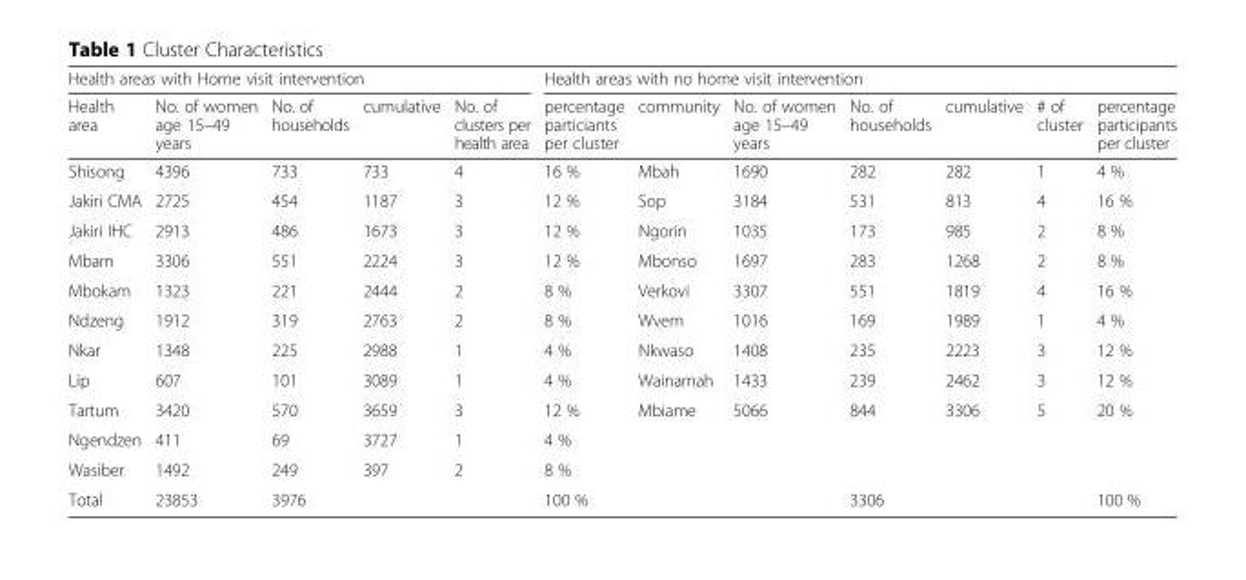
<table><thead><tr><td colspan="5">Health areas with Home visit intervention</td><td colspan="7">Health areas with no home visit intervention</td></tr><tr><td>Health area</td><td>No. of women age 15–49 years</td><td>No. of households</td><td>cumulative</td><td>No. of clusters per health area</td><td>percentage particiants per cluster</td><td>community</td><td>No. of women age 15–49 years</td><td>No. of households</td><td>cumulative</td><td># of cluster</td><td>percentage participants per cluster</td></tr></thead><tbody><tr><td>Shisong</td><td>4396</td><td>733</td><td>733</td><td>4</td><td>16 %</td><td>Mbah</td><td>1690</td><td>282</td><td>282</td><td>1</td><td>4 %</td></tr><tr><td>Jakiri CMA</td><td>2725</td><td>454</td><td>1187</td><td>3</td><td>12 %</td><td>Sop</td><td>3184</td><td>531</td><td>813</td><td>4</td><td>16 %</td></tr><tr><td>Jakiri IHC</td><td>2913</td><td>486</td><td>1673</td><td>3</td><td>12 %</td><td>Ngorin</td><td>1035</td><td>173</td><td>985</td><td>2</td><td>8 %</td></tr><tr><td>Mbam</td><td>3306</td><td>551</td><td>2224</td><td>3</td><td>12 %</td><td>Mbonso</td><td>1697</td><td>283</td><td>1268</td><td>2</td><td>8 %</td></tr><tr><td>Mbokam</td><td>1323</td><td>221</td><td>2444</td><td>2</td><td>8 %</td><td>Verkovi</td><td>3307</td><td>551</td><td>1819</td><td>4</td><td>16 %</td></tr><tr><td>Ndzeng</td><td>1912</td><td>319</td><td>2763</td><td>2</td><td>8 %</td><td>Wvem</td><td>1016</td><td>169</td><td>1989</td><td>1</td><td>4 %</td></tr><tr><td>Nkar</td><td>1348</td><td>225</td><td>2988</td><td>1</td><td>4 %</td><td>Nkwaso</td><td>1408</td><td>235</td><td>2223</td><td>3</td><td>12 %</td></tr><tr><td>Lip</td><td>607</td><td>101</td><td>3089</td><td>1</td><td>4 %</td><td>Wainamah</td><td>1433</td><td>239</td><td>2462</td><td>3</td><td>12 %</td></tr><tr><td>Tartum</td><td>3420</td><td>570</td><td>3659</td><td>3</td><td>12 %</td><td>Mbiame</td><td>5066</td><td>844</td><td>3306</td><td>5</td><td>20 %</td></tr><tr><td>Ngendzen</td><td>411</td><td>69</td><td>3727</td><td>1</td><td>4 %</td><td></td><td></td><td></td><td></td><td></td><td></td></tr><tr><td>Wasiber</td><td>1492</td><td>249</td><td>397</td><td>2</td><td>8 %</td><td></td><td></td><td></td><td></td><td></td><td></td></tr><tr><td>Total</td><td>23853</td><td>3976</td><td></td><td></td><td>100 %</td><td></td><td></td><td>3306</td><td></td><td></td><td>100 %</td></tr></tbody></table>